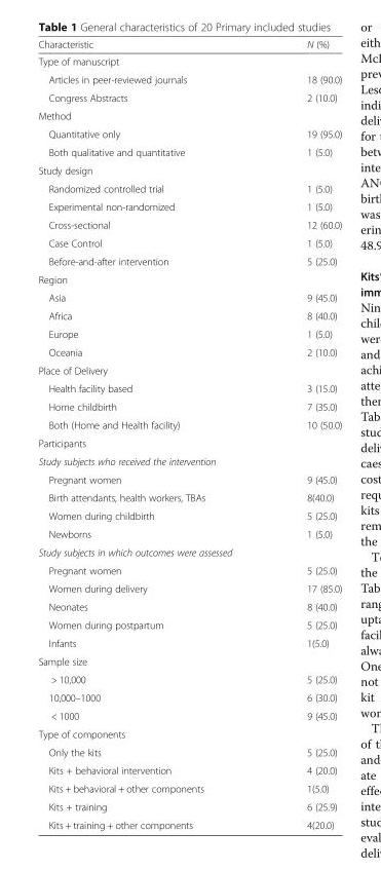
<table><thead><tr><td>Characteristic</td><td>N (%)</td></tr></thead><tbody><tr><td colspan="2">Type of manuscript</td></tr><tr><td>Articles in peer-reviewed journals</td><td>18 (90.0)</td></tr><tr><td>Congress Abstracts</td><td>2 (10.0)</td></tr><tr><td colspan="2">Method</td></tr><tr><td>Quantitative only</td><td>19 (95.0)</td></tr><tr><td>Both qualitative and quantitative</td><td>1 (5.0)</td></tr><tr><td colspan="2">Study design</td></tr><tr><td>Randomized controlled trial</td><td>1 (5.0)</td></tr><tr><td>Experimental non-randomized</td><td>1 (5.0)</td></tr><tr><td>Cross-sectional</td><td>12 (60.0)</td></tr><tr><td>Case Control</td><td>1 (5.0)</td></tr><tr><td>Before-and-after intervention</td><td>5 (25.0)</td></tr><tr><td colspan="2">Region</td></tr><tr><td>Asia</td><td>9 (45.0)</td></tr><tr><td>Africa</td><td>8 (40.0)</td></tr><tr><td>Europe</td><td>1 (5.0)</td></tr><tr><td>Oceania</td><td>2 (10.0)</td></tr><tr><td colspan="2">Place of Delivery</td></tr><tr><td>Health facility based</td><td>3 (15.0)</td></tr><tr><td>Home childbirth</td><td>7 (35.0)</td></tr><tr><td>Both (Home and Health facility)</td><td>10 (50.0)</td></tr><tr><td colspan="2">Participants</td></tr><tr><td colspan="2">Study subjects who received the intervention</td></tr><tr><td>Pregnant women</td><td>9 (45.0)</td></tr><tr><td>Birth attendants, health workers, TBAs</td><td>8(40.0)</td></tr><tr><td>Women during childbirth</td><td>5 (25.0)</td></tr><tr><td>Newborns</td><td>1 (5.0)</td></tr><tr><td colspan="2">Study subjects in which outcomes were assessed</td></tr><tr><td>Pregnant women</td><td>5 (25.0)</td></tr><tr><td>Women during delivery</td><td>17 (85.0)</td></tr><tr><td>Neonates</td><td>8 (40.0)</td></tr><tr><td>Women during postpartum</td><td>5 (25.0)</td></tr><tr><td>Infants</td><td>1(5.0)</td></tr><tr><td colspan="2">Sample size</td></tr><tr><td>&gt; 10,000</td><td>5 (25.0)</td></tr><tr><td>10,000–1000</td><td>6 (30.0)</td></tr><tr><td>&lt; 1000</td><td>9 (45.0)</td></tr><tr><td colspan="2">Type of components</td></tr><tr><td>Only the kits</td><td>5 (25.0)</td></tr><tr><td>Kits + behavioral intervention</td><td>4 (20.0)</td></tr><tr><td>Kits + behavioral + other components</td><td>1(5.0)</td></tr><tr><td>Kits + training</td><td>6 (25.9)</td></tr><tr><td>Kits + training + other components</td><td>4(20.0)</td></tr></tbody></table>